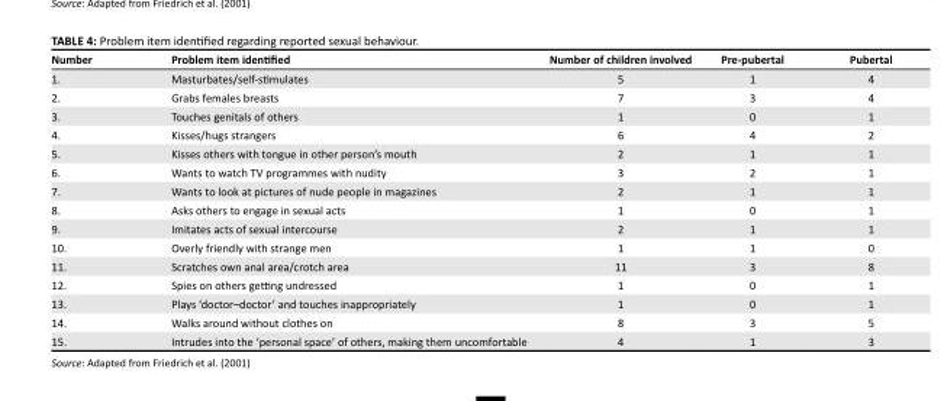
<table><thead><tr><td>Number</td><td>Problem item identified</td><td>Number of children involved</td><td>Pre-pubertal</td><td>Pubertal</td></tr></thead><tbody><tr><td>1.</td><td>Masturbates/self-stimulates</td><td>5</td><td>1</td><td>4</td></tr><tr><td>2.</td><td>Grabs females breasts</td><td>7</td><td>3</td><td>4</td></tr><tr><td>3.</td><td>Touches genitals of others</td><td>1</td><td>0</td><td>1</td></tr><tr><td>4.</td><td>Kisses/hugs strangers</td><td>6</td><td>4</td><td>2</td></tr><tr><td>5.</td><td>Kisses others with tongue in other person’s mouth</td><td>2</td><td>1</td><td>1</td></tr><tr><td>6.</td><td>Wants to watch TV programmes with nudity</td><td>3</td><td>2</td><td>1</td></tr><tr><td>7.</td><td>Wants to look at pictures of nude people in magazines</td><td>2</td><td>1</td><td>1</td></tr><tr><td>8.</td><td>Asks others to engage in sexual acts</td><td>1</td><td>0</td><td>1</td></tr><tr><td>9.</td><td>Imitates acts of sexual intercourse</td><td>2</td><td>1</td><td>1</td></tr><tr><td>10.</td><td>Overly friendly with strange men</td><td>1</td><td>1</td><td>0</td></tr><tr><td>11.</td><td>Scratches own anal area/crotch area</td><td>11</td><td>3</td><td>8</td></tr><tr><td>12.</td><td>Spies on others getting undressed</td><td>1</td><td>0</td><td>1</td></tr><tr><td>13.</td><td>Plays ‘doctor–doctor’ and touches inappropriately</td><td>1</td><td>0</td><td>1</td></tr><tr><td>14.</td><td>Walks around without clothes on</td><td>8</td><td>3</td><td>5</td></tr><tr><td>15.</td><td>Intrudes into the ‘personal space’ of others, making them uncomfortable</td><td>4</td><td>1</td><td>3</td></tr></tbody></table>